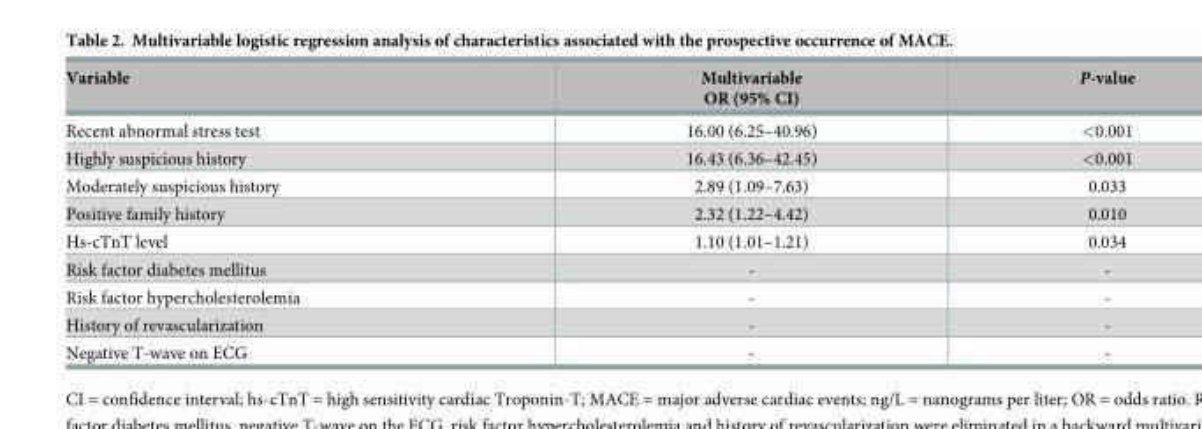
<table><thead><tr><td>Variable</td><td>Multivariable OR (95% CI)</td><td>P-value</td></tr></thead><tbody><tr><td>Recent abnormal stress test</td><td>16.00 (6.25–40.96)</td><td>&lt;0.001</td></tr><tr><td>Highly suspicious history</td><td>16.43 (6.36–42.45)</td><td>&lt;0.001</td></tr><tr><td>Moderately suspicious history</td><td>2.89 (1.09–7.63)</td><td>0.033</td></tr><tr><td>Positive family history</td><td>2.32 (1.22–4.42)</td><td>0.010</td></tr><tr><td>Hs-cTnT level</td><td>1.10 (1.01–1.21)</td><td>0.034</td></tr><tr><td>Risk factor diabetes mellitus</td><td>-</td><td>-</td></tr><tr><td>Risk factor hypercholesterolemia</td><td>-</td><td>-</td></tr><tr><td>History of revascularization</td><td>-</td><td>-</td></tr><tr><td>Negative T-wave on ECG</td><td>-</td><td>-</td></tr></tbody></table>